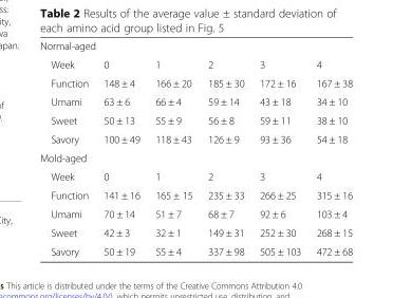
<table><tbody><tr><td colspan="6">Normal-aged</td></tr><tr><td>Week</td><td>0</td><td>1</td><td>2</td><td>3</td><td>4</td></tr><tr><td>Function</td><td>148 ± 4</td><td>166 ± 20</td><td>185 ± 30</td><td>172 ± 16</td><td>167 ± 38</td></tr><tr><td>Umami</td><td>63 ± 6</td><td>66 ± 4</td><td>59 ± 14</td><td>43 ± 18</td><td>34 ± 10</td></tr><tr><td>Sweet</td><td>50 ± 13</td><td>55 ± 9</td><td>56 ± 8</td><td>59 ± 11</td><td>38 ± 10</td></tr><tr><td>Savory</td><td>100 ± 49</td><td>118 ± 43</td><td>126 ± 9</td><td>93 ± 36</td><td>54 ± 18</td></tr><tr><td colspan="6">Mold-aged</td></tr><tr><td>Week</td><td>0</td><td>1</td><td>2</td><td>3</td><td>4</td></tr><tr><td>Function</td><td>141 ± 16</td><td>165 ± 15</td><td>235 ± 33</td><td>266 ± 25</td><td>315 ± 16</td></tr><tr><td>Umami</td><td>70 ± 14</td><td>51 ± 7</td><td>68 ± 7</td><td>92 ± 6</td><td>103 ± 4</td></tr><tr><td>Sweet</td><td>42 ± 3</td><td>32 ± 1</td><td>149 ± 31</td><td>252 ± 30</td><td>268 ± 15</td></tr><tr><td>Savory</td><td>50 ± 19</td><td>55 ± 4</td><td>337 ± 98</td><td>505 ± 103</td><td>472 ± 68</td></tr></tbody></table>